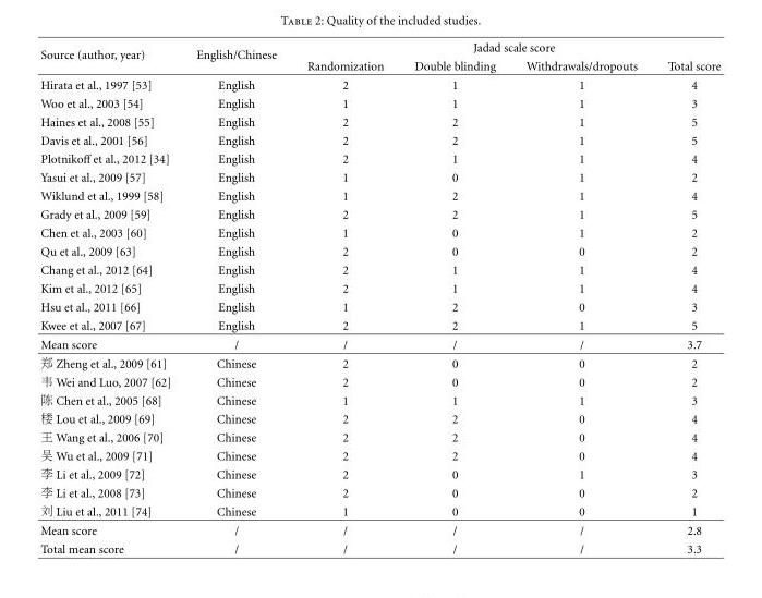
<table><thead><tr><td rowspan="2">Source (author, year)</td><td rowspan="2">English/Chinese</td><td colspan="4">Jadad scale score</td></tr><tr><td>Randomization</td><td>Double blinding</td><td>Withdrawals/dropouts</td><td>Total score</td></tr></thead><tbody><tr><td>Hirata et al., 1997 [53]</td><td>English</td><td>2</td><td>1</td><td>1</td><td>4</td></tr><tr><td>Woo et al., 2003 [54]</td><td>English</td><td>1</td><td>1</td><td>1</td><td>3</td></tr><tr><td>Haines et al., 2008 [55]</td><td>English</td><td>2</td><td>2</td><td>1</td><td>5</td></tr><tr><td>Davis et al., 2001 [56]</td><td>English</td><td>2</td><td>2</td><td>1</td><td>5</td></tr><tr><td>Plotnikoff et al., 2012 [34]</td><td>English</td><td>2</td><td>1</td><td>1</td><td>4</td></tr><tr><td>Yasui et al., 2009 [57]</td><td>English</td><td>1</td><td>0</td><td>1</td><td>2</td></tr><tr><td>Wiklund et al., 1999 [58]</td><td>English</td><td>1</td><td>2</td><td>1</td><td>4</td></tr><tr><td>Grady et al., 2009 [59]</td><td>English</td><td>2</td><td>2</td><td>1</td><td>5</td></tr><tr><td>Chen et al., 2003 [60]</td><td>English</td><td>1</td><td>0</td><td>1</td><td>2</td></tr><tr><td>Qu et al., 2009 [63]</td><td>English</td><td>2</td><td>0</td><td>0</td><td>2</td></tr><tr><td>Chang et al., 2012 [64]</td><td>English</td><td>2</td><td>1</td><td>1</td><td>4</td></tr><tr><td>Kim et al., 2012 [65]</td><td>English</td><td>2</td><td>1</td><td>1</td><td>4</td></tr><tr><td>Hsu et al., 2011 [66]</td><td>English</td><td>1</td><td>2</td><td>0</td><td>3</td></tr><tr><td>Kwee et al., 2007 [67]</td><td>English</td><td>2</td><td>2</td><td>1</td><td>5</td></tr><tr><td>Mean score</td><td>/</td><td>/</td><td>/</td><td>/</td><td>3.7</td></tr><tr><td>郑 Zheng et al., 2009 [61]</td><td>Chinese</td><td>2</td><td>0</td><td>0</td><td>2</td></tr><tr><td>韦 Wei and Luo, 2007 [62]</td><td>Chinese</td><td>2</td><td>0</td><td>0</td><td>2</td></tr><tr><td>陈 Chen et al., 2005 [68]</td><td>Chinese</td><td>1</td><td>1</td><td>1</td><td>3</td></tr><tr><td>楼 Lou et al., 2009 [69]</td><td>Chinese</td><td>2</td><td>2</td><td>0</td><td>4</td></tr><tr><td>王 Wang et al., 2006 [70]</td><td>Chinese</td><td>2</td><td>2</td><td>0</td><td>4</td></tr><tr><td>吴 Wu et al., 2009 [71]</td><td>Chinese</td><td>2</td><td>2</td><td>0</td><td>4</td></tr><tr><td>李 Li et al., 2009 [72]</td><td>Chinese</td><td>2</td><td>0</td><td>1</td><td>3</td></tr><tr><td>李 Li et al., 2008 [73]</td><td>Chinese</td><td>2</td><td>0</td><td>0</td><td>2</td></tr><tr><td>刘 Liu et al., 2011 [74]</td><td>Chinese</td><td>1</td><td>0</td><td>0</td><td>1</td></tr><tr><td>Mean score</td><td>/</td><td>/</td><td>/</td><td>/</td><td>2.8</td></tr><tr><td>Total mean score</td><td>/</td><td>/</td><td>/</td><td>/</td><td>3.3</td></tr></tbody></table>